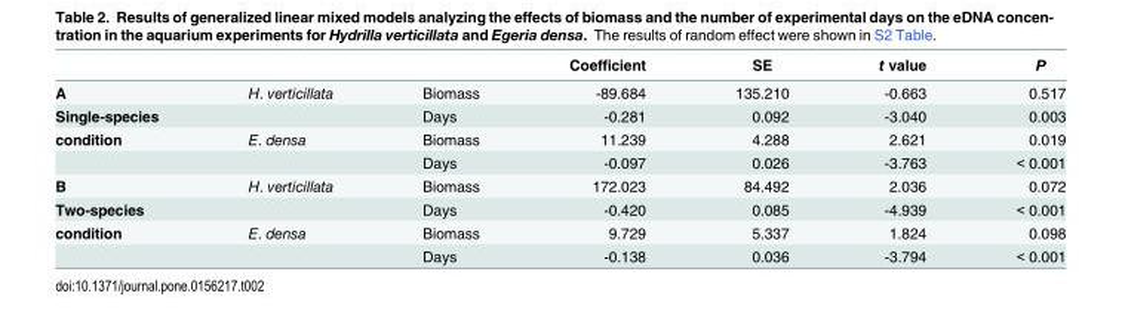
<table><thead><tr><td></td><td></td><td></td><td>Coefficient</td><td>SE</td><td>t value</td><td>P</td></tr></thead><tbody><tr><td>A</td><td>H. verticillata</td><td>Biomass</td><td>-89.684</td><td>135.210</td><td>-0.663</td><td>0.517</td></tr><tr><td>Single-species</td><td></td><td>Days</td><td>-0.281</td><td>0.092</td><td>-3.040</td><td>0.003</td></tr><tr><td rowspan="2">condition</td><td>E. densa</td><td>Biomass</td><td>11.239</td><td>4.288</td><td>2.621</td><td>0.019</td></tr><tr><td></td><td>Days</td><td>-0.097</td><td>0.026</td><td>-3.763</td><td>&lt; 0.001</td></tr><tr><td>B</td><td>H. verticillata</td><td>Biomass</td><td>172.023</td><td>84.492</td><td>2.036</td><td>0.072</td></tr><tr><td>Two-species</td><td></td><td>Days</td><td>-0.420</td><td>0.085</td><td>-4.939</td><td>&lt; 0.001</td></tr><tr><td rowspan="2">condition</td><td>E. densa</td><td>Biomass</td><td>9.729</td><td>5.337</td><td>1.824</td><td>0.098</td></tr><tr><td></td><td>Days</td><td>-0.138</td><td>0.036</td><td>-3.794</td><td>&lt; 0.001</td></tr></tbody></table>